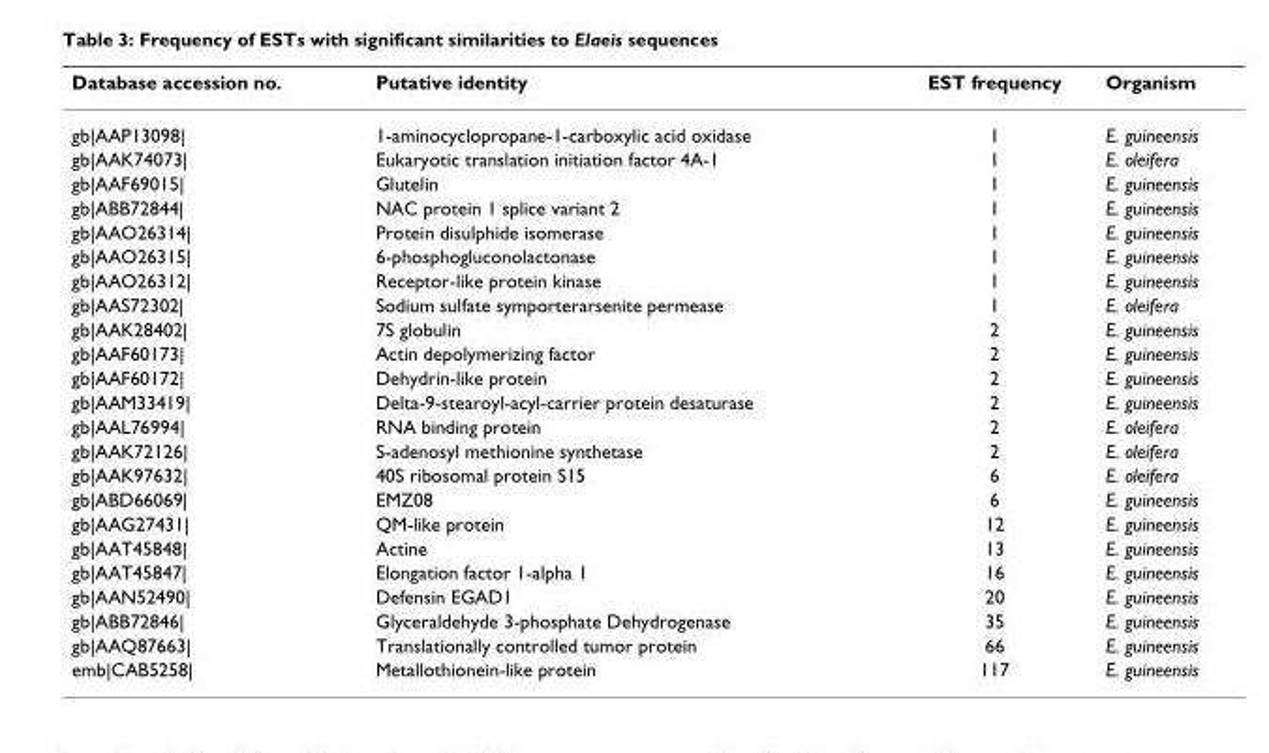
<table><thead><tr><td>Database accession no.</td><td>Putative identity</td><td>EST frequency</td><td>Organism</td></tr></thead><tbody><tr><td>gb|AAP13098|</td><td>1-aminocyclopropane-1-carboxylic acid oxidase</td><td>1</td><td>E. guineensis</td></tr><tr><td>gb|AAK74073|</td><td>Eukaryotic translation initiation factor 4A-1</td><td>1</td><td>E. oleifera</td></tr><tr><td>gb|AAF69015|</td><td>Glutelin</td><td>1</td><td>E. guineensis</td></tr><tr><td>gb|ABB72844|</td><td>NAC protein 1 splice variant 2</td><td>1</td><td>E. guineensis</td></tr><tr><td>gb|AAO26314|</td><td>Protein disulphide isomerase</td><td>1</td><td>E. guineensis</td></tr><tr><td>gb|AAO26315|</td><td>6-phosphogluconolactonase</td><td>1</td><td>E. guineensis</td></tr><tr><td>gb|AAO26312|</td><td>Receptor-like protein kinase</td><td>1</td><td>E. guineensis</td></tr><tr><td>gb|AAS72302|</td><td>Sodium sulfate symporterarsenite permease</td><td>1</td><td>E. oleifera</td></tr><tr><td>gb|AAK28402|</td><td>7S globulin</td><td>2</td><td>E. guineensis</td></tr><tr><td>gb|AAF60173|</td><td>Actin depolymerizing factor</td><td>2</td><td>E. guineensis</td></tr><tr><td>gb|AAF60172|</td><td>Dehydrin-like protein</td><td>2</td><td>E. guineensis</td></tr><tr><td>gb|AAM33419|</td><td>Delta-9-stearoyl-acyl-carrier protein desaturase</td><td>2</td><td>E. guineensis</td></tr><tr><td>gb|AAL76994|</td><td>RNA binding protein</td><td>2</td><td>E. oleifera</td></tr><tr><td>gb|AAK72126|</td><td>S-adenosyl methionine synthetase</td><td>2</td><td>E. oleifera</td></tr><tr><td>gb|AAK97632|</td><td>40S ribosomal protein S15</td><td>6</td><td>E. oleifera</td></tr><tr><td>gb|ABD66069|</td><td>EMZ08</td><td>6</td><td>E. guineensis</td></tr><tr><td>gb|AAG27431|</td><td>QM-like protein</td><td>12</td><td>E. guineensis</td></tr><tr><td>gb|AAT45848|</td><td>Actine</td><td>13</td><td>E. guineensis</td></tr><tr><td>gb|AAT45847|</td><td>Elongation factor 1-alpha 1</td><td>16</td><td>E. guineensis</td></tr><tr><td>gb|AAN52490|</td><td>Defensin EGAD1</td><td>20</td><td>E. guineensis</td></tr><tr><td>gb|ABB72846|</td><td>Glyceraldehyde 3-phosphate Dehydrogenase</td><td>35</td><td>E. guineensis</td></tr><tr><td>gb|AAQ87663|</td><td>Translationally controlled tumor protein</td><td>66</td><td>E. guineensis</td></tr><tr><td>emb|CAB5258|</td><td>Metallothionein-like protein</td><td>117</td><td>E. guineensis</td></tr></tbody></table>